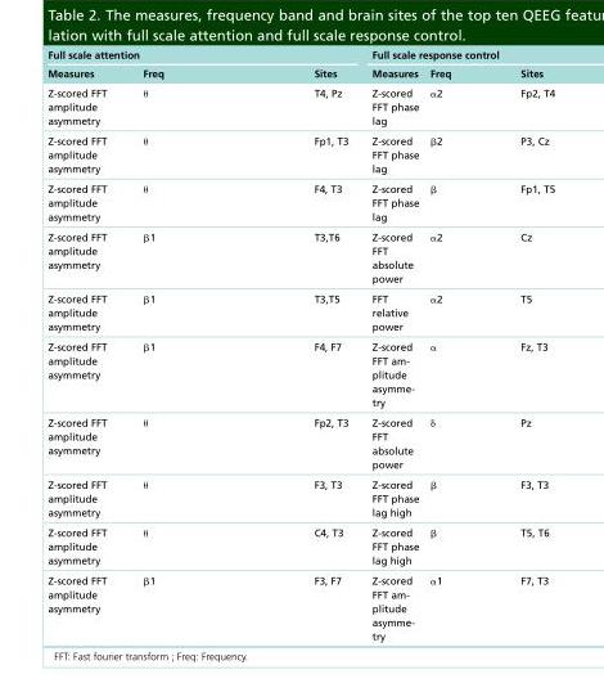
<table><thead><tr><td colspan="3">Full scale attention</td><td colspan="3">Full scale response control</td></tr><tr><td>Measures</td><td>Freq</td><td>Sites</td><td>Measures</td><td>Freq</td><td>Sites</td></tr></thead><tbody><tr><td>Z-scored FFT amplitude asymmetry</td><td>θ</td><td>T4, Pz</td><td>Z-scored FFT phase lag</td><td>α2</td><td>Fp2, T4</td></tr><tr><td>Z-scored FFT amplitude asymmetry</td><td>θ</td><td>Fp1, T3</td><td>Z-scored FFT phase lag</td><td>β2</td><td>P3, Cz</td></tr><tr><td>Z-scored FFT amplitude asymmetry</td><td>θ</td><td>F4, T3</td><td>Z-scored FFT phase lag</td><td>β</td><td>Fp1, T5</td></tr><tr><td>Z-scored FFT amplitude asymmetry</td><td>β1</td><td>T3,T6</td><td>Z-scored FFT absolute power</td><td>α2</td><td>Cz</td></tr><tr><td>Z-scored FFT amplitude asymmetry</td><td>β1</td><td>T3,T5</td><td>FFT relative power</td><td>α2</td><td>T5</td></tr><tr><td>Z-scored FFT amplitude asymmetry</td><td>β1</td><td>F4, F7</td><td>Z-scored FFT am- plitude asymme- try</td><td>α</td><td>Fz, T3</td></tr><tr><td>Z-scored FFT amplitude asymmetry</td><td>θ</td><td>Fp2, T3</td><td>Z-scored FFT absolute power</td><td>δ</td><td>Pz</td></tr><tr><td>Z-scored FFT amplitude asymmetry</td><td>θ</td><td>F3, T3</td><td>Z-scored FFT phase lag high</td><td>β</td><td>F3, T3</td></tr><tr><td>Z-scored FFT amplitude asymmetry</td><td>θ</td><td>C4, T3</td><td>Z-scored FFT phase lag high</td><td>β</td><td>T5, T6</td></tr><tr><td>Z-scored FFT amplitude asymmetry</td><td>β1</td><td>F3, F7</td><td>Z-scored FFT am- plitude asymme- try</td><td>α1</td><td>F7, T3</td></tr></tbody></table>